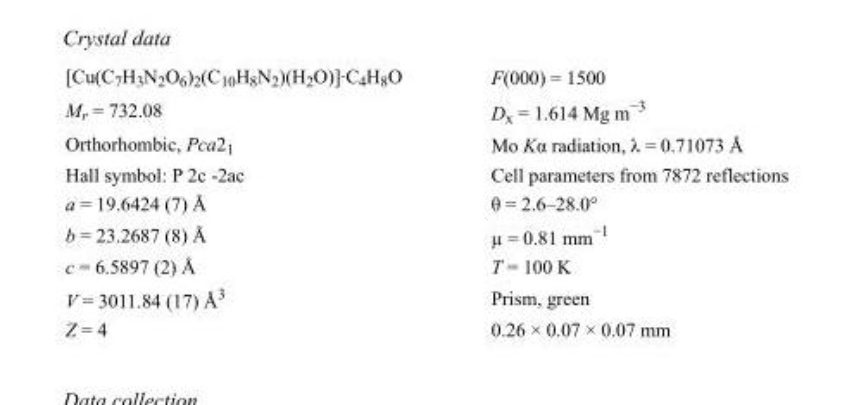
<table><tbody><tr><td>[Cu(C<sub>7</sub>H<sub>3</sub>N<sub>2</sub>O<sub>6</sub>)<sub>2</sub>(C<sub>10</sub>H<sub>8</sub>N<sub>2</sub>)(H<sub>2</sub>O)]·C<sub>4</sub>H<sub>8</sub>O</td><td>F(000) = 1500</td></tr><tr><td>M<sub>r</sub> = 732.08</td><td>D<sub>x</sub> = 1.614 Mg m<sup>−3</sup></td></tr><tr><td>Orthorhombic, Pca2<sub>1</sub></td><td>Mo Kα radiation, λ = 0.71073 Å</td></tr><tr><td>Hall symbol: P 2c -2ac</td><td>Cell parameters from 7872 reflections</td></tr><tr><td>a = 19.6424 (7) Å</td><td>θ = 2.6–28.0°</td></tr><tr><td>b = 23.2687 (8) Å</td><td>µ = 0.81 mm<sup>−1</sup></td></tr><tr><td>c = 6.5897 (2) Å</td><td>T = 100 K</td></tr><tr><td>V = 3011.84 (17) Å<sup>3</sup></td><td>Prism, green</td></tr><tr><td>Z = 4</td><td>0.26 × 0.07 × 0.07 mm</td></tr></tbody></table>